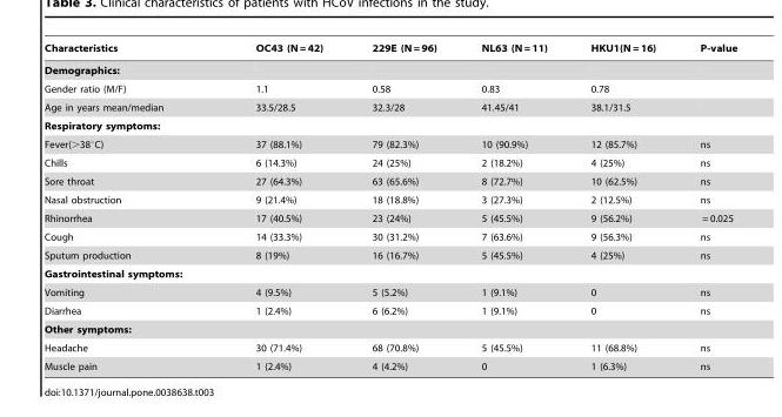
<table><thead><tr><td>Characteristics</td><td>OC43 (N = 42)</td><td>229E (N = 96)</td><td>NL63 (N = 11)</td><td>HKU1(N = 16)</td><td>P-value</td></tr></thead><tbody><tr><td colspan="6">Demographics:</td></tr><tr><td>Gender ratio (M/F)</td><td>1.1</td><td>0.58</td><td>0.83</td><td>0.78</td><td></td></tr><tr><td>Age in years mean/median</td><td>33.5/28.5</td><td>32.3/28</td><td>41.45/41</td><td>38.1/31.5</td><td></td></tr><tr><td colspan="6">Respiratory symptoms:</td></tr><tr><td>Fever(&gt;38°C)</td><td>37 (88.1%)</td><td>79 (82.3%)</td><td>10 (90.9%)</td><td>12 (85.7%)</td><td>ns</td></tr><tr><td>Chills</td><td>6 (14.3%)</td><td>24 (25%)</td><td>2 (18.2%)</td><td>4 (25%)</td><td>ns</td></tr><tr><td>Sore throat</td><td>27 (64.3%)</td><td>63 (65.6%)</td><td>8 (72.7%)</td><td>10 (62.5%)</td><td>ns</td></tr><tr><td>Nasal obstruction</td><td>9 (21.4%)</td><td>18 (18.8%)</td><td>3 (27.3%)</td><td>2 (12.5%)</td><td>ns</td></tr><tr><td>Rhinorrhea</td><td>17 (40.5%)</td><td>23 (24%)</td><td>5 (45.5%)</td><td>9 (56.2%)</td><td>= 0.025</td></tr><tr><td>Cough</td><td>14 (33.3%)</td><td>30 (31.2%)</td><td>7 (63.6%)</td><td>9 (56.3%)</td><td>ns</td></tr><tr><td>Sputum production</td><td>8 (19%)</td><td>16 (16.7%)</td><td>5 (45.5%)</td><td>4 (25%)</td><td>ns</td></tr><tr><td colspan="6">Gastrointestinal symptoms:</td></tr><tr><td>Vomiting</td><td>4 (9.5%)</td><td>5 (5.2%)</td><td>1 (9.1%)</td><td>0</td><td>ns</td></tr><tr><td>Diarrhea</td><td>1 (2.4%)</td><td>6 (6.2%)</td><td>1 (9.1%)</td><td>0</td><td>ns</td></tr><tr><td colspan="6">Other symptoms:</td></tr><tr><td>Headache</td><td>30 (71.4%)</td><td>68 (70.8%)</td><td>5 (45.5%)</td><td>11 (68.8%)</td><td>ns</td></tr><tr><td>Muscle pain</td><td>1 (2.4%)</td><td>4 (4.2%)</td><td>0</td><td>1 (6.3%)</td><td>ns</td></tr></tbody></table>